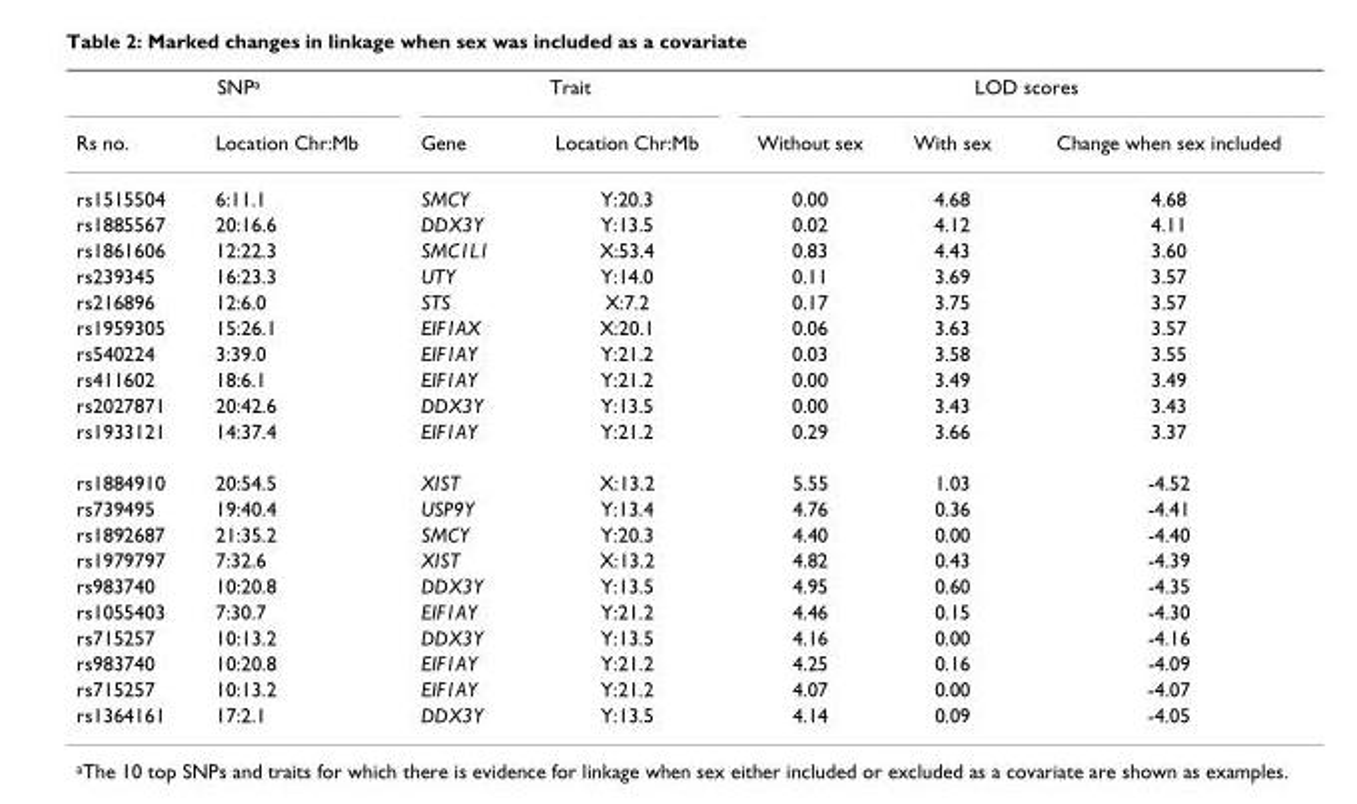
<table><thead><tr><td colspan="2">SNP<sup>a</sup></td><td colspan="2">Trait</td><td colspan="3">LOD scores</td></tr><tr><td>Rs no.</td><td>Location Chr:Mb</td><td>Gene</td><td>Location Chr:Mb</td><td>Without sex</td><td>With sex</td><td>Change when sex included</td></tr></thead><tbody><tr><td>rs1515504</td><td>6:11.1</td><td>SMCY</td><td>Y:20.3</td><td>0.00</td><td>4.68</td><td>4.68</td></tr><tr><td>rs1885567</td><td>20:16.6</td><td>DDX3Y</td><td>Y:13.5</td><td>0.02</td><td>4.12</td><td>4.11</td></tr><tr><td>rs1861606</td><td>12:22.3</td><td>SMC1L1</td><td>X:53.4</td><td>0.83</td><td>4.43</td><td>3.60</td></tr><tr><td>rs239345</td><td>16:23.3</td><td>UTY</td><td>Y:14.0</td><td>0.11</td><td>3.69</td><td>3.57</td></tr><tr><td>rs216896</td><td>12:6.0</td><td>STS</td><td>X:7.2</td><td>0.17</td><td>3.75</td><td>3.57</td></tr><tr><td>rs1959305</td><td>15:26.1</td><td>EIF1AX</td><td>X:20.1</td><td>0.06</td><td>3.63</td><td>3.57</td></tr><tr><td>rs540224</td><td>3:39.0</td><td>EIF1AY</td><td>Y:21.2</td><td>0.03</td><td>3.58</td><td>3.55</td></tr><tr><td>rs411602</td><td>18:6.1</td><td>EIF1AY</td><td>Y:21.2</td><td>0.00</td><td>3.49</td><td>3.49</td></tr><tr><td>rs2027871</td><td>20:42.6</td><td>DDX3Y</td><td>Y:13.5</td><td>0.00</td><td>3.43</td><td>3.43</td></tr><tr><td>rs1933121</td><td>14:37.4</td><td>EIF1AY</td><td>Y:21.2</td><td>0.29</td><td>3.66</td><td>3.37</td></tr><tr><td>rs1884910</td><td>20:54.5</td><td>XIST</td><td>X:13.2</td><td>5.55</td><td>1.03</td><td>-4.52</td></tr><tr><td>rs739495</td><td>19:40.4</td><td>USP9Y</td><td>Y:13.4</td><td>4.76</td><td>0.36</td><td>-4.41</td></tr><tr><td>rs1892687</td><td>21:35.2</td><td>SMCY</td><td>Y:20.3</td><td>4.40</td><td>0.00</td><td>-4.40</td></tr><tr><td>rs1979797</td><td>7:32.6</td><td>XIST</td><td>X:13.2</td><td>4.82</td><td>0.43</td><td>-4.39</td></tr><tr><td>rs983740</td><td>10:20.8</td><td>DDX3Y</td><td>Y:13.5</td><td>4.95</td><td>0.60</td><td>-4.35</td></tr><tr><td>rs1055403</td><td>7:30.7</td><td>EIF1AY</td><td>Y:21.2</td><td>4.46</td><td>0.15</td><td>-4.30</td></tr><tr><td>rs715257</td><td>10:13.2</td><td>DDX3Y</td><td>Y:13.5</td><td>4.16</td><td>0.00</td><td>-4.16</td></tr><tr><td>rs983740</td><td>10:20.8</td><td>EIF1AY</td><td>Y:21.2</td><td>4.25</td><td>0.16</td><td>-4.09</td></tr><tr><td>rs715257</td><td>10:13.2</td><td>EIF1AY</td><td>Y:21.2</td><td>4.07</td><td>0.00</td><td>-4.07</td></tr><tr><td>rs1364161</td><td>17:2.1</td><td>DDX3Y</td><td>Y:13.5</td><td>4.14</td><td>0.09</td><td>-4.05</td></tr></tbody></table>